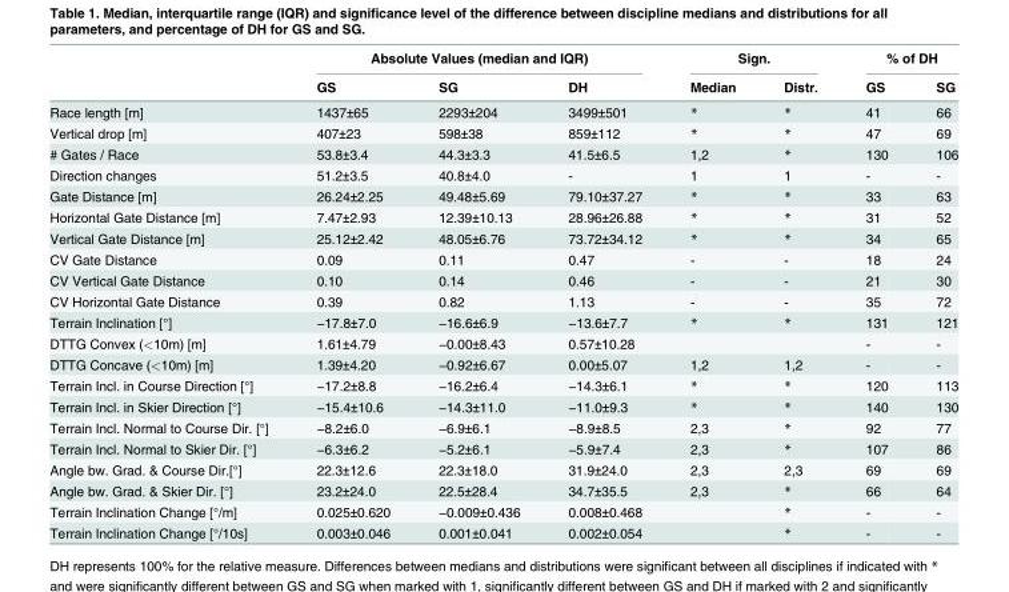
<table><thead><tr><td rowspan="2"></td><td colspan="3">Absolute Values (median and IQR)</td><td colspan="2">Sign.</td><td colspan="2">% of DH</td></tr><tr><td>GS</td><td>SG</td><td>DH</td><td>Median</td><td>Distr.</td><td>GS</td><td>SG</td></tr></thead><tbody><tr><td>Race length [m]</td><td>1437±65</td><td>2293±204</td><td>3499±501</td><td>*</td><td>*</td><td>41</td><td>66</td></tr><tr><td>Vertical drop [m]</td><td>407±23</td><td>598±38</td><td>859±112</td><td>*</td><td>*</td><td>47</td><td>69</td></tr><tr><td># Gates / Race</td><td>53.8±3.4</td><td>44.3±3.3</td><td>41.5±6.5</td><td>1,2</td><td>*</td><td>130</td><td>106</td></tr><tr><td>Direction changes</td><td>51.2±3.5</td><td>40.8±4.0</td><td>-</td><td>1</td><td>1</td><td>-</td><td>-</td></tr><tr><td>Gate Distance [m]</td><td>26.24±2.25</td><td>49.48±5.69</td><td>79.10±37.27</td><td>*</td><td>*</td><td>33</td><td>63</td></tr><tr><td>Horizontal Gate Distance [m]</td><td>7.47±2.93</td><td>12.39±10.13</td><td>28.96±26.88</td><td>*</td><td>*</td><td>31</td><td>52</td></tr><tr><td>Vertical Gate Distance [m]</td><td>25.12±2.42</td><td>48.05±6.76</td><td>73.72±34.12</td><td>*</td><td>*</td><td>34</td><td>65</td></tr><tr><td>CV Gate Distance</td><td>0.09</td><td>0.11</td><td>0.47</td><td>-</td><td>-</td><td>18</td><td>24</td></tr><tr><td>CV Vertical Gate Distance</td><td>0.10</td><td>0.14</td><td>0.46</td><td>-</td><td>-</td><td>21</td><td>30</td></tr><tr><td>CV Horizontal Gate Distance</td><td>0.39</td><td>0.82</td><td>1.13</td><td>-</td><td>-</td><td>35</td><td>72</td></tr><tr><td>Terrain Inclination [°]</td><td>−17.8±7.0</td><td>−16.6±6.9</td><td>−13.6±7.7</td><td>*</td><td>*</td><td>131</td><td>121</td></tr><tr><td>DTTG Convex (&lt;10m) [m]</td><td>1.61±4.79</td><td>−0.00±8.43</td><td>0.57±10.28</td><td></td><td></td><td>-</td><td>-</td></tr><tr><td>DTTG Concave (&lt;10m) [m]</td><td>1.39±4.20</td><td>−0.92±6.67</td><td>0.00±5.07</td><td>1,2</td><td>1,2</td><td>-</td><td>-</td></tr><tr><td>Terrain Incl. in Course Direction [°]</td><td>−17.2±8.8</td><td>−16.2±6.4</td><td>−14.3±6.1</td><td>*</td><td>*</td><td>120</td><td>113</td></tr><tr><td>Terrain Incl. in Skier Direction [°]</td><td>−15.4±10.6</td><td>−14.3±11.0</td><td>−11.0±9.3</td><td>*</td><td>*</td><td>140</td><td>130</td></tr><tr><td>Terrain Incl. Normal to Course Dir. [°]</td><td>−8.2±6.0</td><td>−6.9±6.1</td><td>−8.9±8.5</td><td>2,3</td><td>*</td><td>92</td><td>77</td></tr><tr><td>Terrain Incl. Normal to Skier Dir. [°]</td><td>−6.3±6.2</td><td>−5.2±6.1</td><td>−5.9±7.4</td><td>2,3</td><td>*</td><td>107</td><td>86</td></tr><tr><td>Angle bw. Grad. &amp; Course Dir.[°]</td><td>22.3±12.6</td><td>22.3±18.0</td><td>31.9±24.0</td><td>2,3</td><td>2,3</td><td>69</td><td>69</td></tr><tr><td>Angle bw. Grad. &amp; Skier Dir. [°]</td><td>23.2±24.0</td><td>22.5±28.4</td><td>34.7±35.5</td><td>2,3</td><td>*</td><td>66</td><td>64</td></tr><tr><td>Terrain Inclination Change [°/m]</td><td>0.025±0.620</td><td>−0.009±0.436</td><td>0.008±0.468</td><td></td><td>*</td><td>-</td><td>-</td></tr><tr><td>Terrain Inclination Change [°/10s]</td><td>0.003±0.046</td><td>0.001±0.041</td><td>0.002±0.054</td><td></td><td>*</td><td>-</td><td>-</td></tr></tbody></table>